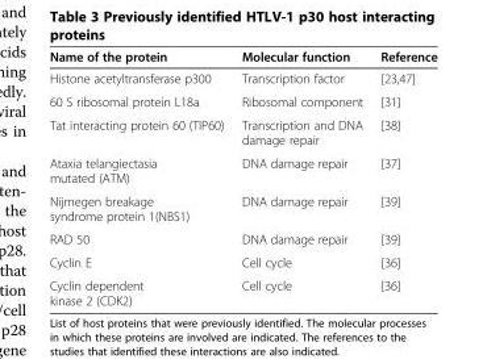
<table><thead><tr><td>Name of the protein</td><td>Molecular function</td><td>Reference</td></tr></thead><tbody><tr><td>Histone acetyltransferase p300</td><td>Transcription factor</td><td>[23,47]</td></tr><tr><td>60 S ribosomal protein L18a</td><td>Ribosomal component</td><td>[31]</td></tr><tr><td>Tat interacting protein 60 (TIP60)</td><td>Transcription and DNA damage repair</td><td>[38]</td></tr><tr><td>Ataxia telangiectasia mutated (ATM)</td><td>DNA damage repair</td><td>[37]</td></tr><tr><td>Nijmegen breakage syndrome protein 1(NBS1)</td><td>DNA damage repair</td><td>[39]</td></tr><tr><td>RAD 50</td><td>DNA damage repair</td><td>[39]</td></tr><tr><td>Cyclin E</td><td>Cell cycle</td><td>[36]</td></tr><tr><td>Cyclin dependent kinase 2 (CDK2)</td><td>Cell cycle</td><td>[36]</td></tr></tbody></table>